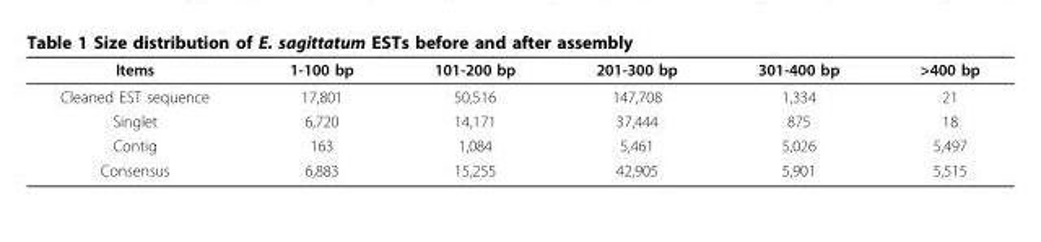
<table><thead><tr><td>Items</td><td>1-100 bp</td><td>101-200 bp</td><td>201-300 bp</td><td>301-400 bp</td><td>&gt;400 bp</td></tr></thead><tbody><tr><td>Cleaned EST sequence</td><td>17,801</td><td>50,516</td><td>147,708</td><td>1,334</td><td>21</td></tr><tr><td>Singlet</td><td>6,720</td><td>14,171</td><td>37,444</td><td>875</td><td>18</td></tr><tr><td>Contig</td><td>163</td><td>1,084</td><td>5,461</td><td>5,026</td><td>5,497</td></tr><tr><td>Consensus</td><td>6,883</td><td>15,255</td><td>42,905</td><td>5,901</td><td>5,515</td></tr></tbody></table>